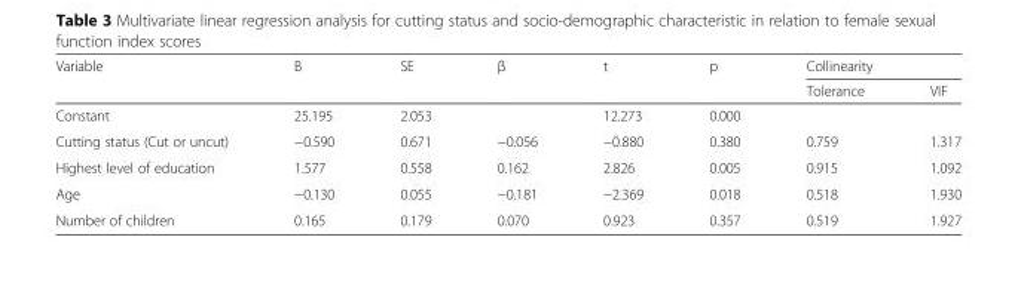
<table><thead><tr><td rowspan="2">Variable</td><td rowspan="2">B</td><td rowspan="2">SE</td><td rowspan="2">β</td><td rowspan="2">t</td><td rowspan="2">p</td><td colspan="2">Collinearity</td></tr><tr><td>Tolerance</td><td>VIF</td></tr></thead><tbody><tr><td>Constant</td><td>25.195</td><td>2.053</td><td></td><td>12.273</td><td>0.000</td><td></td><td></td></tr><tr><td>Cutting status (Cut or uncut)</td><td>−0.590</td><td>0.671</td><td>−0.056</td><td>−0.880</td><td>0.380</td><td>0.759</td><td>1.317</td></tr><tr><td>Highest level of education</td><td>1.577</td><td>0.558</td><td>0.162</td><td>2.826</td><td>0.005</td><td>0.915</td><td>1.092</td></tr><tr><td>Age</td><td>−0.130</td><td>0.055</td><td>−0.181</td><td>−2.369</td><td>0.018</td><td>0.518</td><td>1.930</td></tr><tr><td>Number of children</td><td>0.165</td><td>0.179</td><td>0.070</td><td>0.923</td><td>0.357</td><td>0.519</td><td>1.927</td></tr></tbody></table>